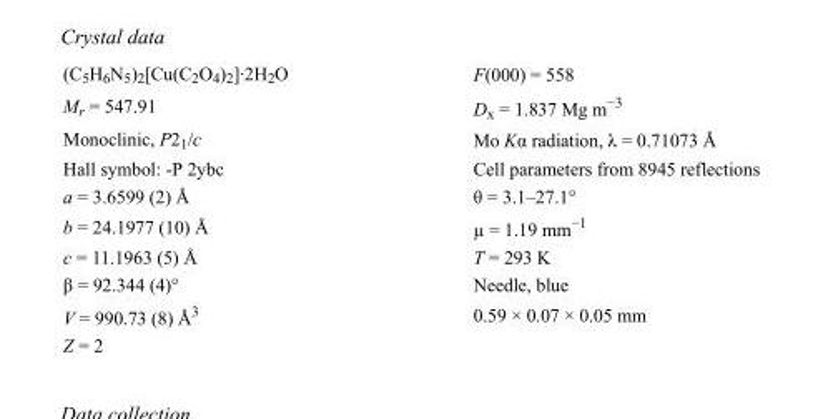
<table><tbody><tr><td>(C<sub>5</sub>H<sub>6</sub>N<sub>5</sub>)<sub>2</sub>[Cu(C<sub>2</sub>O<sub>4</sub>)<sub>2</sub>]·2H<sub>2</sub>O</td><td>F(000) = 558</td></tr><tr><td>M<sub>r</sub> = 547.91</td><td>D<sub>x</sub> = 1.837 Mg m<sup>−3</sup></td></tr><tr><td>Monoclinic, P2<sub>1</sub>/c</td><td>Mo Kα radiation, λ = 0.71073 Å</td></tr><tr><td>Hall symbol: -P 2ybc</td><td>Cell parameters from 8945 reflections</td></tr><tr><td>a = 3.6599 (2) Å</td><td>θ = 3.1–27.1°</td></tr><tr><td>b = 24.1977 (10) Å</td><td>µ = 1.19 mm<sup>−1</sup></td></tr><tr><td>c = 11.1963 (5) Å</td><td>T = 293 K</td></tr><tr><td>β = 92.344 (4)°</td><td>Needle, blue</td></tr><tr><td>V = 990.73 (8) Å<sup>3</sup></td><td>0.59 × 0.07 × 0.05 mm</td></tr><tr><td>Z = 2</td><td></td></tr></tbody></table>